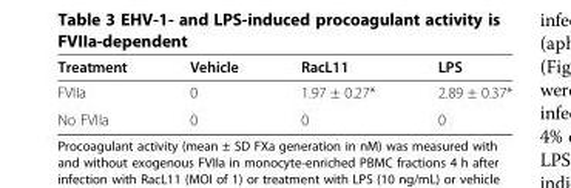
<table><thead><tr><td>Treatment</td><td>Vehicle</td><td>RacL11</td><td>LPS</td></tr></thead><tbody><tr><td>FVIIa</td><td>0</td><td>1.97 ± 0.27*</td><td>2.89 ± 0.37*</td></tr><tr><td>No FVIIa</td><td>0</td><td>0</td><td>0</td></tr></tbody></table>